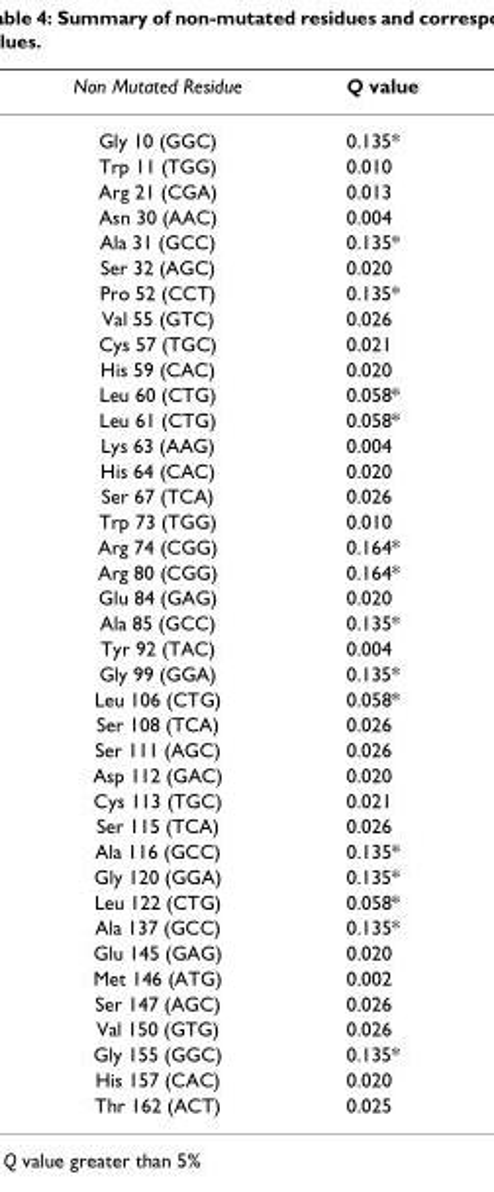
<table><thead><tr><td>Non Mutated Residue</td><td>Q value</td></tr></thead><tbody><tr><td>Gly 10 (GGC)</td><td>0.135*</td></tr><tr><td>Trp 11 (TGG)</td><td>0.010</td></tr><tr><td>Arg 21 (CGA)</td><td>0.013</td></tr><tr><td>Asn 30 (AAC)</td><td>0.004</td></tr><tr><td>Ala 31 (GCC)</td><td>0.135*</td></tr><tr><td>Ser 32 (AGC)</td><td>0.020</td></tr><tr><td>Pro 52 (CCT)</td><td>0.135*</td></tr><tr><td>Val 55 (GTC)</td><td>0.026</td></tr><tr><td>Cys 57 (TGC)</td><td>0.021</td></tr><tr><td>His 59 (CAC)</td><td>0.020</td></tr><tr><td>Leu 60 (CTG)</td><td>0.058*</td></tr><tr><td>Leu 61 (CTG)</td><td>0.058*</td></tr><tr><td>Lys 63 (AAG)</td><td>0.004</td></tr><tr><td>His 64 (CAC)</td><td>0.020</td></tr><tr><td>Ser 67 (TCA)</td><td>0.026</td></tr><tr><td>Trp 73 (TGG)</td><td>0.010</td></tr><tr><td>Arg 74 (CGG)</td><td>0.164*</td></tr><tr><td>Arg 80 (CGG)</td><td>0.164*</td></tr><tr><td>Glu 84 (GAG)</td><td>0.020</td></tr><tr><td>Ala 85 (GCC)</td><td>0.135*</td></tr><tr><td>Tyr 92 (TAC)</td><td>0.004</td></tr><tr><td>Gly 99 (GGA)</td><td>0.135*</td></tr><tr><td>Leu 106 (CTG)</td><td>0.058*</td></tr><tr><td>Ser 108 (TCA)</td><td>0.026</td></tr><tr><td>Ser 111 (AGC)</td><td>0.026</td></tr><tr><td>Asp 112 (GAC)</td><td>0.020</td></tr><tr><td>Cys 113 (TGC)</td><td>0.021</td></tr><tr><td>Ser 115 (TCA)</td><td>0.026</td></tr><tr><td>Ala 116 (GCC)</td><td>0.135*</td></tr><tr><td>Gly 120 (GGA)</td><td>0.135*</td></tr><tr><td>Leu 122 (CTG)</td><td>0.058*</td></tr><tr><td>Ala 137 (GCC)</td><td>0.135*</td></tr><tr><td>Glu 145 (GAG)</td><td>0.020</td></tr><tr><td>Met 146 (ATG)</td><td>0.002</td></tr><tr><td>Ser 147 (AGC)</td><td>0.026</td></tr><tr><td>Val 150 (GTG)</td><td>0.026</td></tr><tr><td>Gly 155 (GGC)</td><td>0.135*</td></tr><tr><td>His 157 (CAC)</td><td>0.020</td></tr><tr><td>Thr 162 (ACT)</td><td>0.025</td></tr></tbody></table>